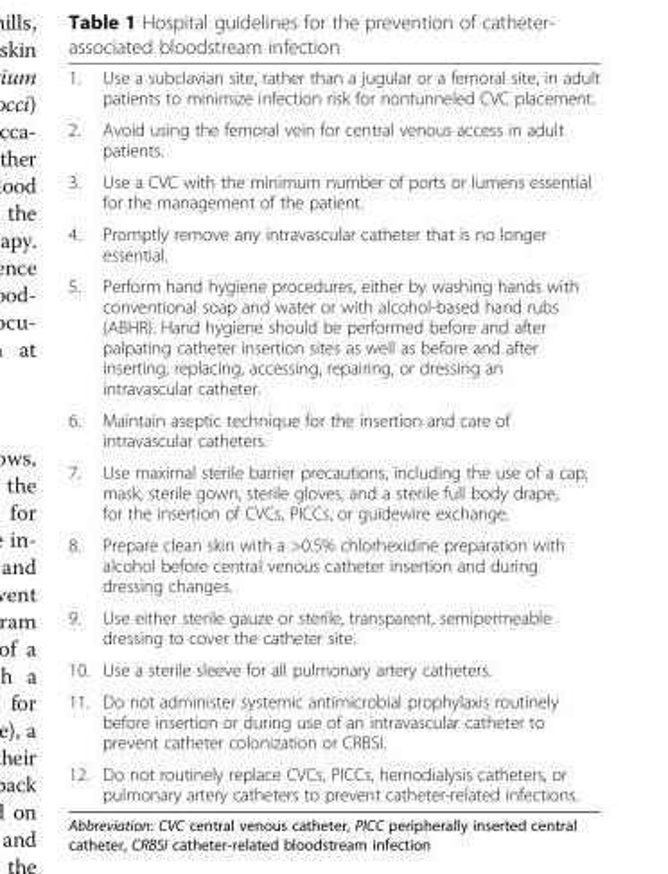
<table><tbody><tr><td>1.</td><td>Use a subclavian site, rather than a jugular or a femoral site, in adult patients to minimize infection risk for nontunneled CVC placement.</td></tr><tr><td>2.</td><td>Avoid using the femoral vein for central venous access in adult patients.</td></tr><tr><td>3.</td><td>Use a CVC with the minimum number of ports or lumens essential for the management of the patient.</td></tr><tr><td>4.</td><td>Promptly remove any intravascular catheter that is no longer essential.</td></tr><tr><td>5.</td><td>Perform hand hygiene procedures, either by washing hands with conventional soap and water or with alcohol-based hand rubs (ABHR). Hand hygiene should be performed before and after palpating catheter insertion sites as well as before and after inserting, replacing, accessing, repairing, or dressing an intravascular catheter.</td></tr><tr><td>6.</td><td>Maintain aseptic technique for the insertion and care of intravascular catheters.</td></tr><tr><td>7.</td><td>Use maximal sterile barrier precautions, including the use of a cap, mask, sterile gown, sterile gloves, and a sterile full body drape, for the insertion of CVCs, PICCs, or guidewire exchange.</td></tr><tr><td>8.</td><td>Prepare clean skin with a &gt;0.5% chlorhexidine preparation with alcohol before central venous catheter insertion and during dressing changes.</td></tr><tr><td>9.</td><td>Use either sterile gauze or sterile, transparent, semipermeable dressing to cover the catheter site.</td></tr><tr><td>10.</td><td>Use a sterile sleeve for all pulmonary artery catheters.</td></tr><tr><td>11.</td><td>Do not administer systemic antimicrobial prophylaxis routinely before insertion or during use of an intravascular catheter to prevent catheter colonization or CRBSI.</td></tr><tr><td>12.</td><td>Do not routinely replace CVCs, PICCs, hemodialysis catheters, or pulmonary artery catheters to prevent catheter-related infections.</td></tr></tbody></table>